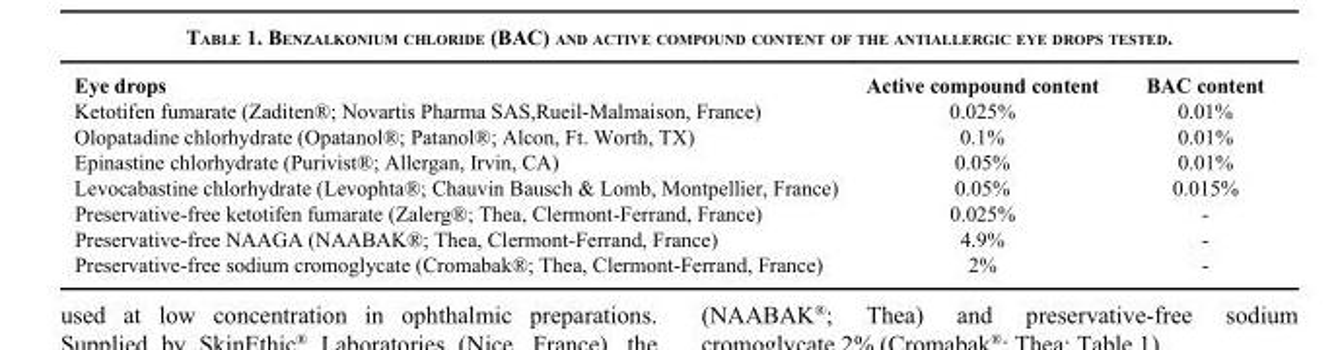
<table><thead><tr><td>Eye drops</td><td>Active compound content</td><td>BAC content</td></tr></thead><tbody><tr><td>Ketotifen fumarate (Zaditen®; Novartis Pharma SAS,Rueil-Malmaison, France)</td><td>0.025%</td><td>0.01%</td></tr><tr><td>Olopatadine chlorhydrate (Opatanol®; Patanol®; Alcon, Ft. Worth, TX)</td><td>0.1%</td><td>0.01%</td></tr><tr><td>Epinastine chlorhydrate (Purivist®; Allergan, Irvin, CA)</td><td>0.05%</td><td>0.01%</td></tr><tr><td>Levocabastine chlorhydrate (Levophta®; Chauvin Bausch &amp; Lomb, Montpellier, France)</td><td>0.05%</td><td>0.015%</td></tr><tr><td>Preservative-free ketotifen fumarate (Zalerg®; Thea, Clermont-Ferrand, France)</td><td>0.025%</td><td>-</td></tr><tr><td>Preservative-free NAAGA (NAABAK®; Thea, Clermont-Ferrand, France)</td><td>4.9%</td><td>-</td></tr><tr><td>Preservative-free sodium cromoglycate (Cromabak®; Thea, Clermont-Ferrand, France)</td><td>2%</td><td>-</td></tr></tbody></table>